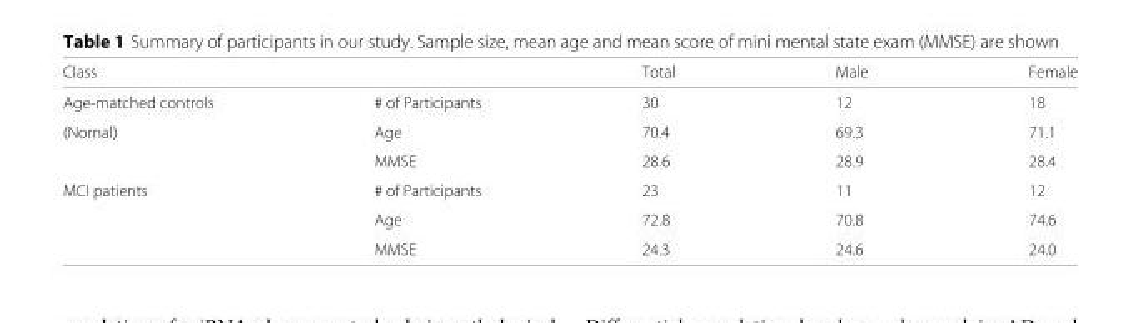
<table><thead><tr><td>Class</td><td></td><td>Total</td><td>Male</td><td>Female</td></tr></thead><tbody><tr><td>Age-matched controls</td><td># of Participants</td><td>30</td><td>12</td><td>18</td></tr><tr><td rowspan="2">(Nornal)</td><td>Age</td><td>70.4</td><td>69.3</td><td>71.1</td></tr><tr><td>MMSE</td><td>28.6</td><td>28.9</td><td>28.4</td></tr><tr><td rowspan="3">MCI patients</td><td># of Participants</td><td>23</td><td>11</td><td>12</td></tr><tr><td>Age</td><td>72.8</td><td>70.8</td><td>74.6</td></tr><tr><td>MMSE</td><td>24.3</td><td>24.6</td><td>24.0</td></tr></tbody></table>